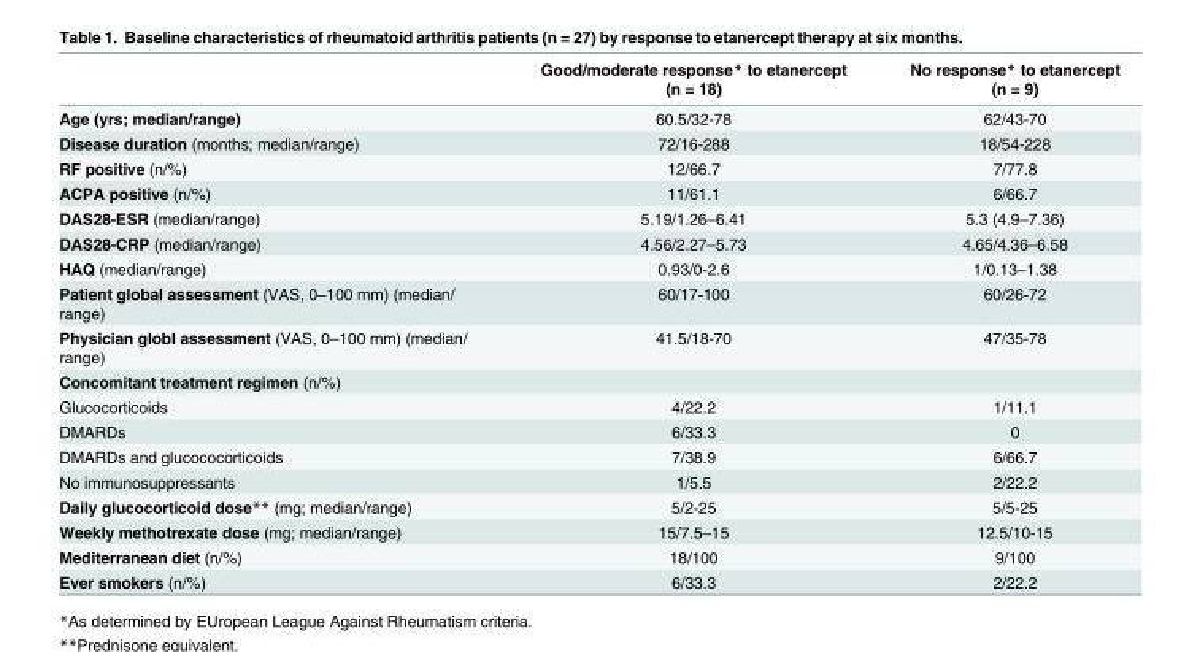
<table><thead><tr><td></td><td>Good/moderate response* to etanercept (n = 18)</td><td>No response* to etanercept (n = 9)</td></tr></thead><tbody><tr><td>Age (yrs; median/range)</td><td>60.5/32-78</td><td>62/43-70</td></tr><tr><td>Disease duration (months; median/range)</td><td>72/16-288</td><td>18/54-228</td></tr><tr><td>RF positive (n/%)</td><td>12/66.7</td><td>7/77.8</td></tr><tr><td>ACPA positive (n/%)</td><td>11/61.1</td><td>6/66.7</td></tr><tr><td>DAS28-ESR (median/range)</td><td>5.19/1.26–6.41</td><td>5.3 (4.9–7.36)</td></tr><tr><td>DAS28-CRP (median/range)</td><td>4.56/2.27–5.73</td><td>4.65/4.36–6.58</td></tr><tr><td>HAQ (median/range)</td><td>0.93/0-2.6</td><td>1/0.13–1.38</td></tr><tr><td>Patient global assessment (VAS, 0–100 mm) (median/ range)</td><td>60/17-100</td><td>60/26-72</td></tr><tr><td>Physician globl assessment (VAS, 0–100 mm) (median/ range)</td><td>41.5/18-70</td><td>47/35-78</td></tr><tr><td colspan="3">Concomitant treatment regimen (n/%)</td></tr><tr><td>Glucocorticoids</td><td>4/22.2</td><td>1/11.1</td></tr><tr><td>DMARDs</td><td>6/33.3</td><td>0</td></tr><tr><td>DMARDs and glucococorticoids</td><td>7/38.9</td><td>6/66.7</td></tr><tr><td>No immunosuppressants</td><td>1/5.5</td><td>2/22.2</td></tr><tr><td>Daily glucocorticoid dose** (mg; median/range)</td><td>5/2-25</td><td>5/5-25</td></tr><tr><td>Weekly methotrexate dose (mg; median/range)</td><td>15/7.5–15</td><td>12.5/10-15</td></tr><tr><td>Mediterranean diet (n/%)</td><td>18/100</td><td>9/100</td></tr><tr><td>Ever smokers (n/%)</td><td>6/33.3</td><td>2/22.2</td></tr></tbody></table>